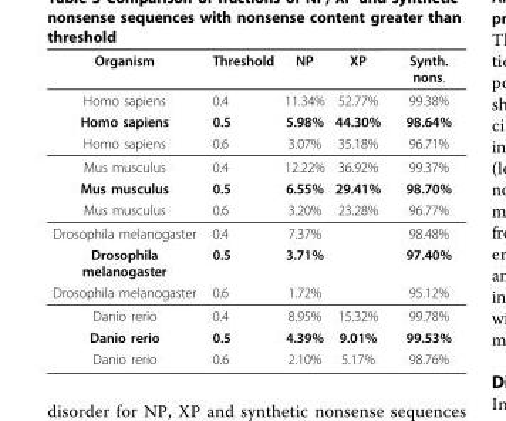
<table><thead><tr><td>Organism</td><td>Threshold</td><td>NP</td><td>XP</td><td>Synth. nons.</td></tr></thead><tbody><tr><td>Homo sapiens</td><td>0.4</td><td>11.34%</td><td>52.77%</td><td>99.38%</td></tr><tr><td>Homo sapiens</td><td>0.5</td><td>5.98%</td><td>44.30%</td><td>98.64%</td></tr><tr><td>Homo sapiens</td><td>0.6</td><td>3.07%</td><td>35.18%</td><td>96.71%</td></tr><tr><td>Mus musculus</td><td>0.4</td><td>12.22%</td><td>36.92%</td><td>99.37%</td></tr><tr><td>Mus musculus</td><td>0.5</td><td>6.55%</td><td>29.41%</td><td>98.70%</td></tr><tr><td>Mus musculus</td><td>0.6</td><td>3.20%</td><td>23.28%</td><td>96.77%</td></tr><tr><td>Drosophila melanogaster</td><td>0.4</td><td>7.37%</td><td></td><td>98.48%</td></tr><tr><td>Drosophila melanogaster</td><td>0.5</td><td>3.71%</td><td></td><td>97.40%</td></tr><tr><td>Drosophila melanogaster</td><td>0.6</td><td>1.72%</td><td></td><td>95.12%</td></tr><tr><td>Danio rerio</td><td>0.4</td><td>8.95%</td><td>15.32%</td><td>99.78%</td></tr><tr><td>Danio rerio</td><td>0.5</td><td>4.39%</td><td>9.01%</td><td>99.53%</td></tr><tr><td>Danio rerio</td><td>0.6</td><td>2.10%</td><td>5.17%</td><td>98.76%</td></tr></tbody></table>